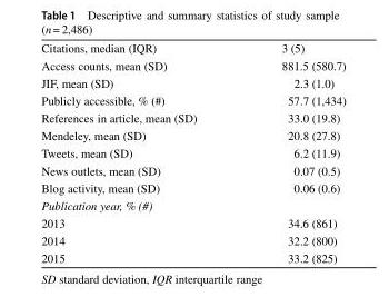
<table><tbody><tr><td>Citations, median (IQR)</td><td>3 (5)</td></tr><tr><td>Access counts, mean (SD)</td><td>881.5 (580.7)</td></tr><tr><td>JIF, mean (SD)</td><td>2.3 (1.0)</td></tr><tr><td>Publicly accessible, % (#)</td><td>57.7 (1,434)</td></tr><tr><td>References in article, mean (SD)</td><td>33.0 (19.8)</td></tr><tr><td>Mendeley, mean (SD)</td><td>20.8 (27.8)</td></tr><tr><td>Tweets, mean (SD)</td><td>6.2 (11.9)</td></tr><tr><td>News outlets, mean (SD)</td><td>0.07 (0.5)</td></tr><tr><td>Blog activity, mean (SD)</td><td>0.06 (0.6)</td></tr><tr><td colspan="2">Publication year, % (#)</td></tr><tr><td>2013</td><td>34.6 (861)</td></tr><tr><td>2014</td><td>32.2 (800)</td></tr><tr><td>2015</td><td>33.2 (825)</td></tr></tbody></table>